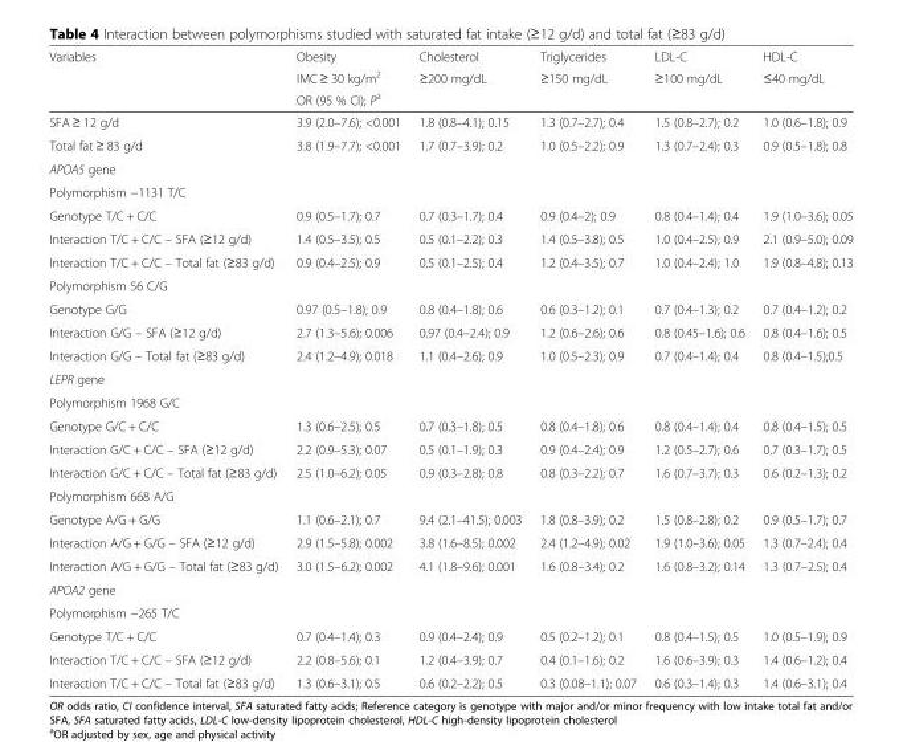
<table><thead><tr><td rowspan="3">Variables</td><td rowspan="2">Obesity IMC ≥ 30 kg/m<sup>2</sup></td><td rowspan="2">Cholesterol ≥200 mg/dL</td><td rowspan="2">Triglycerides ≥150 mg/dL</td><td rowspan="2">LDL-C ≥100 mg/dL</td><td rowspan="2">HDL-C ≤40 mg/dL</td></tr><tr></tr><tr><td colspan="5">OR (95 % CI); P<sup>a</sup></td></tr></thead><tbody><tr><td>SFA ≥ 12 g/d</td><td>3.9 (2.0–7.6); &lt;0.001</td><td>1.8 (0.8–4.1); 0.15</td><td>1.3 (0.7–2.7); 0.4</td><td>1.5 (0.8–2.7); 0.2</td><td>1.0 (0.6–1.8); 0.9</td></tr><tr><td>Total fat ≥ 83 g/d</td><td>3.8 (1.9–7.7); &lt;0.001</td><td>1.7 (0.7–3.9); 0.2</td><td>1.0 (0.5–2.2); 0.9</td><td>1.3 (0.7–2.4); 0.3</td><td>0.9 (0.5–1.8); 0.8</td></tr><tr><td colspan="6">APOA5 gene</td></tr><tr><td colspan="6">Polymorphism −1131 T/C</td></tr><tr><td>Genotype T/C + C/C</td><td>0.9 (0.5–1.7); 0.7</td><td>0.7 (0.3–1.7); 0.4</td><td>0.9 (0.4–2); 0.9</td><td>0.8 (0.4–1.4); 0.4</td><td>1.9 (1.0–3.6); 0.05</td></tr><tr><td>Interaction T/C + C/C – SFA (≥12 g/d)</td><td>1.4 (0.5–3.5); 0.5</td><td>0.5 (0.1–2.2); 0.3</td><td>1.4 (0.5–3.8); 0.5</td><td>1.0 (0.4–2.5); 0.9</td><td>2.1 (0.9–5.0); 0.09</td></tr><tr><td>Interaction T/C + C/C – Total fat (≥83 g/d)</td><td>0.9 (0.4–2.5); 0.9</td><td>0.5 (0.1–2.5); 0.4</td><td>1.2 (0.4–3.5); 0.7</td><td>1.0 (0.4–2.4); 1.0</td><td>1.9 (0.8–4.8); 0.13</td></tr><tr><td colspan="6">Polymorphism 56 C/G</td></tr><tr><td>Genotype G/G</td><td>0.97 (0.5–1.8); 0.9</td><td>0.8 (0.4–1.8); 0.6</td><td>0.6 (0.3–1.2); 0.1</td><td>0.7 (0.4–1.3); 0.2</td><td>0.7 (0.4–1.2); 0.2</td></tr><tr><td>Interaction G/G – SFA (≥12 g/d)</td><td>2.7 (1.3–5.6); 0.006</td><td>0.97 (0.4–2.4); 0.9</td><td>1.2 (0.6–2.6); 0.6</td><td>0.8 (0.45–1.6); 0.6</td><td>0.8 (0.4–1.6); 0.5</td></tr><tr><td>Interaction G/G – Total fat (≥83 g/d)</td><td>2.4 (1.2–4.9); 0.018</td><td>1.1 (0.4–2.6); 0.9</td><td>1.0 (0.5–2.3); 0.9</td><td>0.7 (0.4–1.4); 0.4</td><td>0.8 (0.4–1.5);0.5</td></tr><tr><td colspan="6">LEPR gene</td></tr><tr><td colspan="6">Polymorphism 1968 G/C</td></tr><tr><td>Genotype G/C + C/C</td><td>1.3 (0.6–2.5); 0.5</td><td>0.7 (0.3–1.8); 0.5</td><td>0.8 (0.4–1.8); 0.6</td><td>0.8 (0.4–1.4); 0.4</td><td>0.8 (0.4–1.5); 0.5</td></tr><tr><td>Interaction G/C + C/C – SFA (≥12 g/d)</td><td>2.2 (0.9–5.3); 0.07</td><td>0.5 (0.1–1.9); 0.3</td><td>0.9 (0.4–2.4); 0.9</td><td>1.2 (0.5–2.7); 0.6</td><td>0.7 (0.3–1.7); 0.5</td></tr><tr><td>Interaction G/C + C/C – Total fat (≥83 g/d)</td><td>2.5 (1.0–6.2); 0.05</td><td>0.9 (0.3–2.8); 0.8</td><td>0.8 (0.3–2.2); 0.7</td><td>1.6 (0.7–3.7); 0.3</td><td>0.6 (0.2–1.3); 0.2</td></tr><tr><td colspan="6">Polymorphism 668 A/G</td></tr><tr><td>Genotype A/G + G/G</td><td>1.1 (0.6–2.1); 0.7</td><td>9.4 (2.1–41.5); 0.003</td><td>1.8 (0.8–3.9); 0.2</td><td>1.5 (0.8–2.8); 0.2</td><td>0.9 (0.5–1.7); 0.7</td></tr><tr><td>Interaction A/G + G/G – SFA (≥12 g/d)</td><td>2.9 (1.5–5.8); 0.002</td><td>3.8 (1.6–8.5); 0.002</td><td>2.4 (1.2–4.9); 0.02</td><td>1.9 (1.0–3.6); 0.05</td><td>1.3 (0.7–2.4); 0.4</td></tr><tr><td>Interaction A/G + G/G – Total fat (≥83 g/d)</td><td>3.0 (1.5–6.2); 0.002</td><td>4.1 (1.8–9.6); 0.001</td><td>1.6 (0.8–3.4); 0.2</td><td>1.6 (0.8–3.2); 0.14</td><td>1.3 (0.7–2.5); 0.4</td></tr><tr><td colspan="6">APOA2 gene</td></tr><tr><td colspan="6">Polymorphism −265 T/C</td></tr><tr><td>Genotype T/C + C/C</td><td>0.7 (0.4–1.4); 0.3</td><td>0.9 (0.4–2.4); 0.9</td><td>0.5 (0.2–1.2); 0.1</td><td>0.8 (0.4–1.5); 0.5</td><td>1.0 (0.5–1.9); 0.9</td></tr><tr><td>Interaction T/C + C/C – SFA (≥12 g/d)</td><td>2.2 (0.8–5.6); 0.1</td><td>1.2 (0.4–3.9); 0.7</td><td>0.4 (0.1–1.6); 0.2</td><td>1.6 (0.6–3.9); 0.3</td><td>1.4 (0.6–1.2); 0.4</td></tr><tr><td>Interaction T/C + C/C – Total fat (≥83 g/d)</td><td>1.3 (0.6–3.1); 0.5</td><td>0.6 (0.2–2.2); 0.5</td><td>0.3 (0.08–1.1); 0.07</td><td>0.6 (0.3–1.4); 0.3</td><td>1.4 (0.6–3.1); 0.4</td></tr></tbody></table>